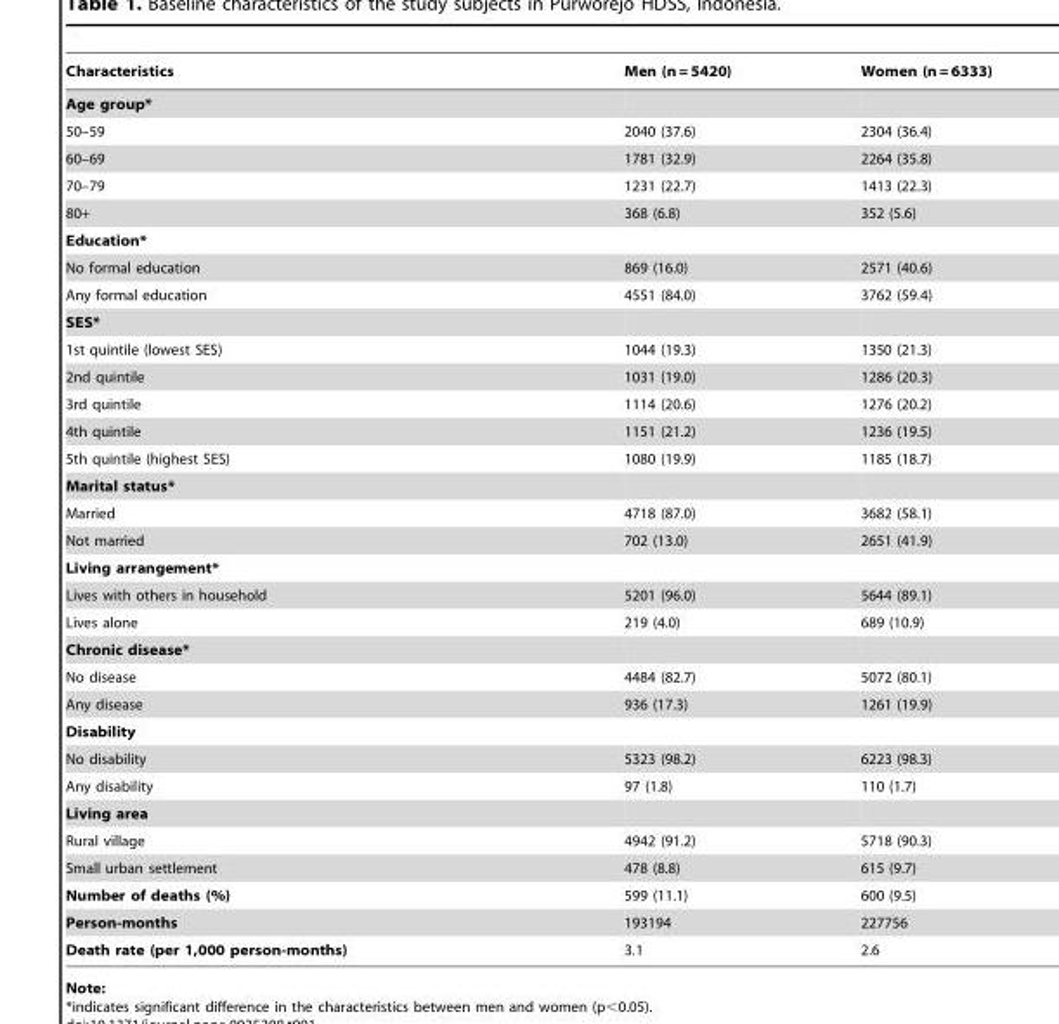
<table><thead><tr><td>Characteristics</td><td>Men (n = 5420)</td><td>Women (n = 6333)</td></tr></thead><tbody><tr><td colspan="3">Age group*</td></tr><tr><td>50–59</td><td>2040 (37.6)</td><td>2304 (36.4)</td></tr><tr><td>60–69</td><td>1781 (32.9)</td><td>2264 (35.8)</td></tr><tr><td>70–79</td><td>1231 (22.7)</td><td>1413 (22.3)</td></tr><tr><td>80+</td><td>368 (6.8)</td><td>352 (5.6)</td></tr><tr><td colspan="3">Education*</td></tr><tr><td>No formal education</td><td>869 (16.0)</td><td>2571 (40.6)</td></tr><tr><td>Any formal education</td><td>4551 (84.0)</td><td>3762 (59.4)</td></tr><tr><td colspan="3">SES*</td></tr><tr><td>1st quintile (lowest SES)</td><td>1044 (19.3)</td><td>1350 (21.3)</td></tr><tr><td>2nd quintile</td><td>1031 (19.0)</td><td>1286 (20.3)</td></tr><tr><td>3rd quintile</td><td>1114 (20.6)</td><td>1276 (20.2)</td></tr><tr><td>4th quintile</td><td>1151 (21.2)</td><td>1236 (19.5)</td></tr><tr><td>5th quintile (highest SES)</td><td>1080 (19.9)</td><td>1185 (18.7)</td></tr><tr><td colspan="3">Marital status*</td></tr><tr><td>Married</td><td>4718 (87.0)</td><td>3682 (58.1)</td></tr><tr><td>Not married</td><td>702 (13.0)</td><td>2651 (41.9)</td></tr><tr><td colspan="3">Living arrangement*</td></tr><tr><td>Lives with others in household</td><td>5201 (96.0)</td><td>5644 (89.1)</td></tr><tr><td>Lives alone</td><td>219 (4.0)</td><td>689 (10.9)</td></tr><tr><td colspan="3">Chronic disease*</td></tr><tr><td>No disease</td><td>4484 (82.7)</td><td>5072 (80.1)</td></tr><tr><td>Any disease</td><td>936 (17.3)</td><td>1261 (19.9)</td></tr><tr><td colspan="3">Disability</td></tr><tr><td>No disability</td><td>5323 (98.2)</td><td>6223 (98.3)</td></tr><tr><td>Any disability</td><td>97 (1.8)</td><td>110 (1.7)</td></tr><tr><td colspan="3">Living area</td></tr><tr><td>Rural village</td><td>4942 (91.2)</td><td>5718 (90.3)</td></tr><tr><td>Small urban settlement</td><td>478 (8.8)</td><td>615 (9.7)</td></tr><tr><td>Number of deaths (%)</td><td>599 (11.1)</td><td>600 (9.5)</td></tr><tr><td>Person-months</td><td>193194</td><td>227756</td></tr><tr><td>Death rate (per 1,000 person-months)</td><td>3.1</td><td>2.6</td></tr></tbody></table>